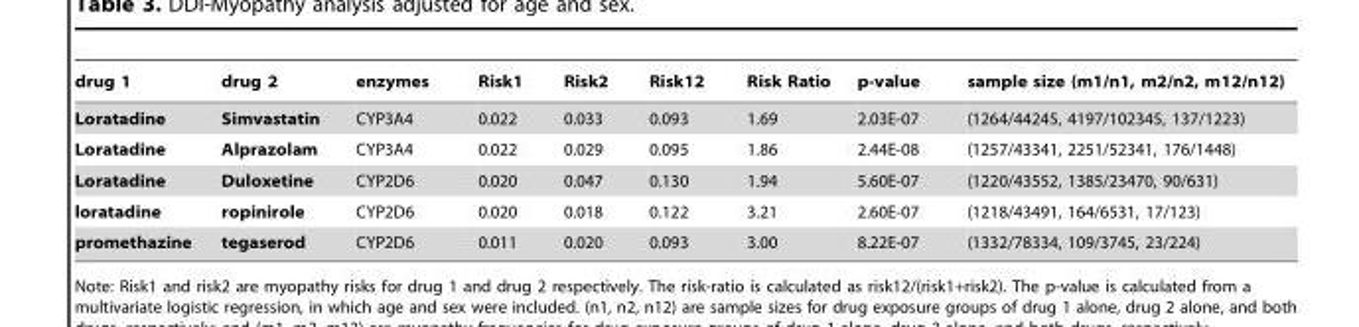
<table><thead><tr><td>drug 1</td><td>drug 2</td><td>enzymes</td><td>Risk1</td><td>Risk2</td><td>Risk12</td><td>Risk Ratio</td><td>p-value</td><td>sample size (m1/n1, m2/n2, m12/n12)</td></tr></thead><tbody><tr><td>Loratadine</td><td>Simvastatin</td><td>CYP3A4</td><td>0.022</td><td>0.033</td><td>0.093</td><td>1.69</td><td>2.03E-07</td><td>(1264/44245, 4197/102345, 137/1223)</td></tr><tr><td>Loratadine</td><td>Alprazolam</td><td>CYP3A4</td><td>0.022</td><td>0.029</td><td>0.095</td><td>1.86</td><td>2.44E-08</td><td>(1257/43341, 2251/52341, 176/1448)</td></tr><tr><td>Loratadine</td><td>Duloxetine</td><td>CYP2D6</td><td>0.020</td><td>0.047</td><td>0.130</td><td>1.94</td><td>5.60E-07</td><td>(1220/43552, 1385/23470, 90/631)</td></tr><tr><td>loratadine</td><td>ropinirole</td><td>CYP2D6</td><td>0.020</td><td>0.018</td><td>0.122</td><td>3.21</td><td>2.60E-07</td><td>(1218/43491, 164/6531, 17/123)</td></tr><tr><td>promethazine</td><td>tegaserod</td><td>CYP2D6</td><td>0.011</td><td>0.020</td><td>0.093</td><td>3.00</td><td>8.22E-07</td><td>(1332/78334, 109/3745, 23/224)</td></tr></tbody></table>